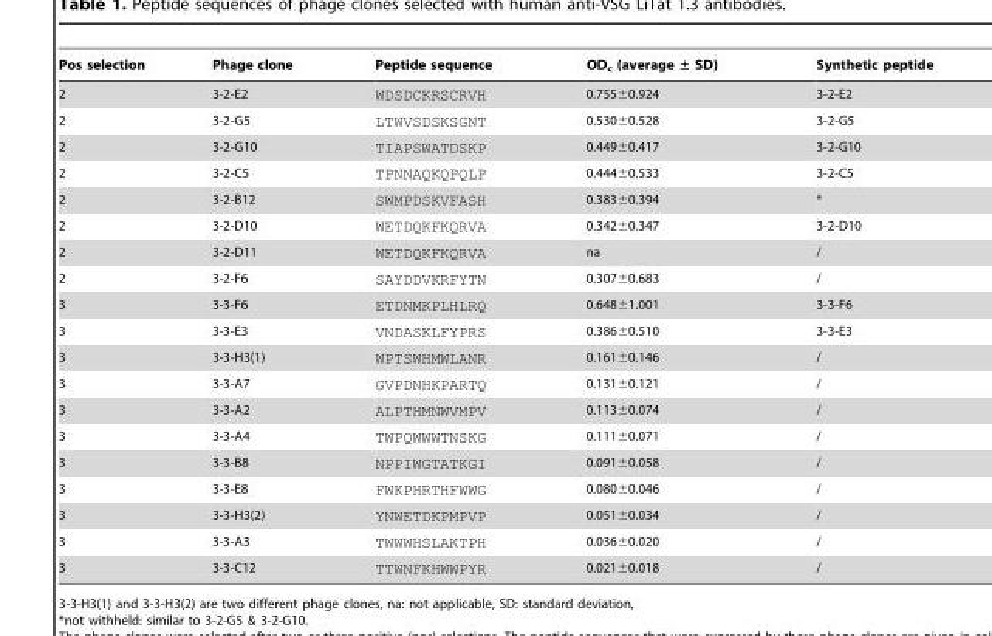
<table><thead><tr><td>Pos selection</td><td>Phage clone</td><td>Peptide sequence</td><td>OD<sub>c</sub> (average ± SD)</td><td>Synthetic peptide</td></tr></thead><tbody><tr><td>2</td><td>3-2-E2</td><td>WDSDCKRSCRVH</td><td>0.755±0.924</td><td>3-2-E2</td></tr><tr><td>2</td><td>3-2-G5</td><td>LTWVSDSKSGNT</td><td>0.530±0.528</td><td>3-2-G5</td></tr><tr><td>2</td><td>3-2-G10</td><td>TIAPSWATDSKP</td><td>0.449±0.417</td><td>3-2-G10</td></tr><tr><td>2</td><td>3-2-C5</td><td>TPNNAQKQPQLP</td><td>0.444±0.533</td><td>3-2-C5</td></tr><tr><td>2</td><td>3-2-B12</td><td>SWMPDSKVFASH</td><td>0.383±0.394</td><td>*</td></tr><tr><td>2</td><td>3-2-D10</td><td>WETDQKFKQRVA</td><td>0.342±0.347</td><td>3-2-D10</td></tr><tr><td>2</td><td>3-2-D11</td><td>WETDQKFKQRVA</td><td>na</td><td>/</td></tr><tr><td>2</td><td>3-2-F6</td><td>SAYDDVKRFYTN</td><td>0.307±0.683</td><td>/</td></tr><tr><td>3</td><td>3-3-F6</td><td>ETDNMKPLHLRQ</td><td>0.648±1.001</td><td>3-3-F6</td></tr><tr><td>3</td><td>3-3-E3</td><td>VNDASKLFYPRS</td><td>0.386±0.510</td><td>3-3-E3</td></tr><tr><td>3</td><td>3-3-H3(1)</td><td>WPTSWHMWLANR</td><td>0.161±0.146</td><td>/</td></tr><tr><td>3</td><td>3-3-A7</td><td>GVPDNHKPARTQ</td><td>0.131±0.121</td><td>/</td></tr><tr><td>3</td><td>3-3-A2</td><td>ALPTHMNWVMPV</td><td>0.113±0.074</td><td>/</td></tr><tr><td>3</td><td>3-3-A4</td><td>TWPQWWWTNSKG</td><td>0.111±0.071</td><td>/</td></tr><tr><td>3</td><td>3-3-B8</td><td>NPPIWGTATKGI</td><td>0.091±0.058</td><td>/</td></tr><tr><td>3</td><td>3-3-E8</td><td>FWKPHRTHFWWG</td><td>0.080±0.046</td><td>/</td></tr><tr><td>3</td><td>3-3-H3(2)</td><td>YNWETDKPMPVP</td><td>0.051±0.034</td><td>/</td></tr><tr><td>3</td><td>3-3-A3</td><td>TWWWHSLAKTPH</td><td>0.036±0.020</td><td>/</td></tr><tr><td>3</td><td>3-3-C12</td><td>TTWNFKHWWPYR</td><td>0.021±0.018</td><td>/</td></tr></tbody></table>